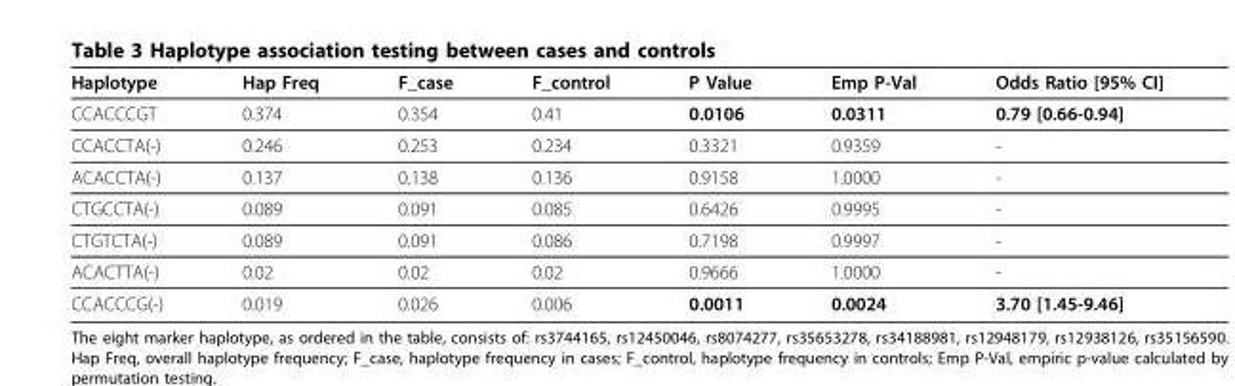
<table><thead><tr><td>Haplotype</td><td>Hap Freq</td><td>F_case</td><td>F_control</td><td>P Value</td><td>Emp P-Val</td><td>Odds Ratio [95% CI]</td></tr></thead><tbody><tr><td>CCACCCGT</td><td>0.374</td><td>0.354</td><td>0.41</td><td>0.0106</td><td>0.0311</td><td>0.79 [0.66-0.94]</td></tr><tr><td>CCACCTA(-)</td><td>0.246</td><td>0.253</td><td>0.234</td><td>0.3321</td><td>0.9359</td><td>-</td></tr><tr><td>ACACCTA(-)</td><td>0.137</td><td>0.138</td><td>0.136</td><td>0.9158</td><td>1.0000</td><td>-</td></tr><tr><td>CTGCCTA(-)</td><td>0.089</td><td>0.091</td><td>0.085</td><td>0.6426</td><td>0.9995</td><td>-</td></tr><tr><td>CTGTCTA(-)</td><td>0.089</td><td>0.091</td><td>0.086</td><td>0.7198</td><td>0.9997</td><td>-</td></tr><tr><td>ACACTTA(-)</td><td>0.02</td><td>0.02</td><td>0.02</td><td>0.9666</td><td>1.0000</td><td>-</td></tr><tr><td>CCACCCG(-)</td><td>0.019</td><td>0.026</td><td>0.006</td><td>0.0011</td><td>0.0024</td><td>3.70 [1.45-9.46]</td></tr></tbody></table>